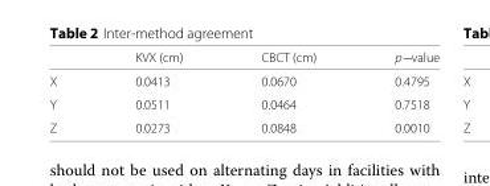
<table><thead><tr><td></td><td>KVX (cm)</td><td>CBCT (cm)</td><td>p−value</td></tr></thead><tbody><tr><td>X</td><td>0.0413</td><td>0.0670</td><td>0.4795</td></tr><tr><td>Y</td><td>0.0511</td><td>0.0464</td><td>0.7518</td></tr><tr><td>Z</td><td>0.0273</td><td>0.0848</td><td>0.0010</td></tr></tbody></table>